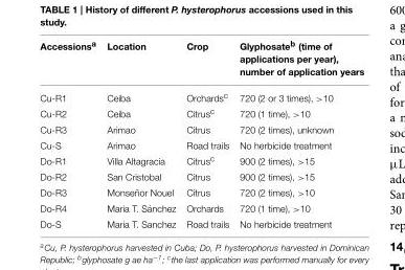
<table><thead><tr><td>Accessions<sup>a</sup></td><td>Location</td><td>Crop</td><td>Glyphosate<sup>b</sup> (time of applications per year), number of application years</td></tr></thead><tbody><tr><td>Cu-R1</td><td>Ceiba</td><td>Orchards<sup>c</sup></td><td>720 (2 or 3 times), &gt;10</td></tr><tr><td>Cu-R2</td><td>Ceiba</td><td>Citrus<sup>c</sup></td><td>720 (1 time), &gt;10</td></tr><tr><td>Cu-R3</td><td>Arimao</td><td>Citrus</td><td>720 (2 times), unknown</td></tr><tr><td>Cu-S</td><td>Arimao</td><td>Road trails</td><td>No herbicide treatment</td></tr><tr><td>Do-R1</td><td>Villa Altagracia</td><td>Citrus<sup>c</sup></td><td>900 (2 times), &gt;15</td></tr><tr><td>Do-R2</td><td>San Cristobal</td><td>Citrus</td><td>900 (2 times), &gt;15</td></tr><tr><td>Do-R3</td><td>Monseñor Nouel</td><td>Citrus</td><td>720 (2 times), &gt;10</td></tr><tr><td>Do-R4</td><td>Maria T. Sánchez</td><td>Orchards</td><td>720 (1 time), &gt;10</td></tr><tr><td>Do-S</td><td>Maria T. Sanchez</td><td>Road trails</td><td>No herbicide treatment</td></tr></tbody></table>